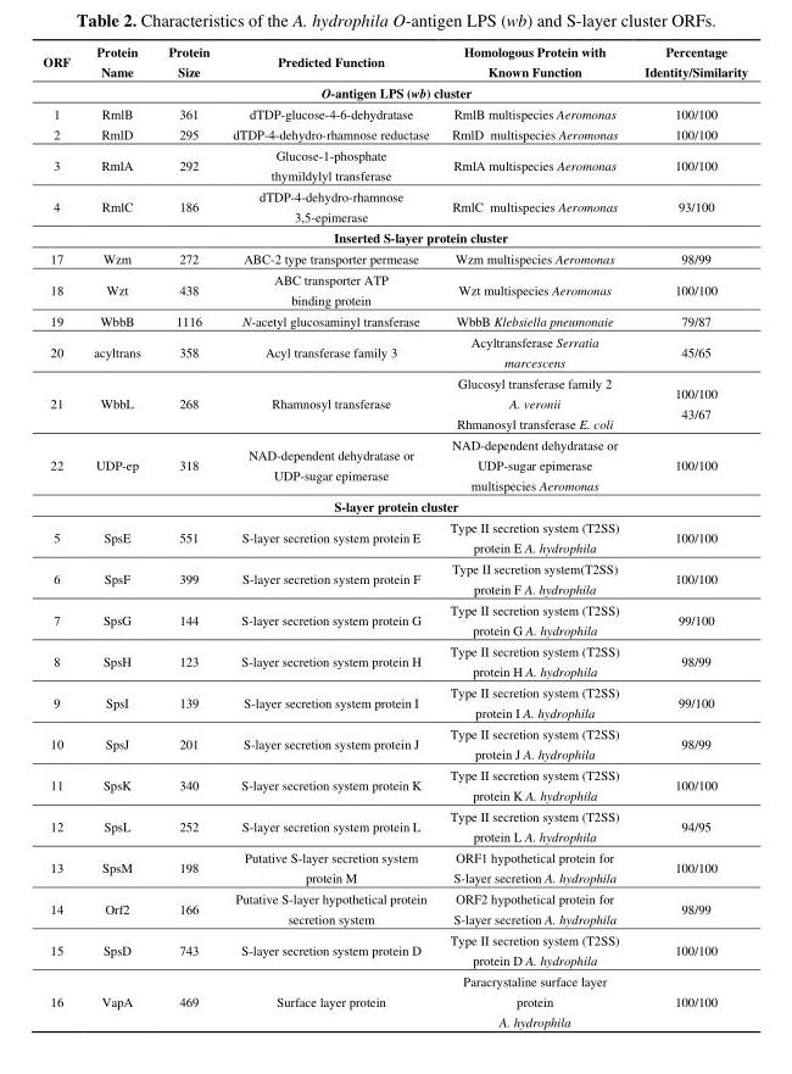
<table><thead><tr><td>ORF</td><td>Protein Name</td><td>Protein Size</td><td>Predicted Function</td><td>Homologous Protein with Known Function</td><td>Percentage Identity/Similarity</td></tr></thead><tbody><tr><td colspan="6">O-antigen LPS (wb) cluster</td></tr><tr><td>1</td><td>RmlB</td><td>361</td><td>dTDP-glucose-4-6-dehydratase</td><td>RmlB multispecies Aeromonas</td><td>100/100</td></tr><tr><td>2</td><td>RmlD</td><td>295</td><td>dTDP-4-dehydro-rhamnose reductase</td><td>RmlD multispecies Aeromonas</td><td>100/100</td></tr><tr><td>3</td><td>RmlA</td><td>292</td><td>Glucose-1-phosphate thymildylyl transferase</td><td>RmlA multispecies Aeromonas</td><td>100/100</td></tr><tr><td rowspan="2">4</td><td>RmlC</td><td>186</td><td>dTDP-4-dehydro-rhamnose 3,5-epimerase</td><td>RmlC multispecies Aeromonas</td><td>93/100</td></tr><tr><td colspan="5">Inserted S-layer protein cluster</td></tr><tr><td>17</td><td>Wzm</td><td>272</td><td>ABC-2 type transporter permease</td><td>Wzm multispecies Aeromonas</td><td>98/99</td></tr><tr><td>18</td><td>Wzt</td><td>438</td><td>ABC transporter ATP binding protein</td><td>Wzt multispecies Aeromonas</td><td>100/100</td></tr><tr><td>19</td><td>WbbB</td><td>1116</td><td>N-acetyl glucosaminyl transferase</td><td>WbbB Klebsiella pneumonaie</td><td>79/87</td></tr><tr><td>20</td><td>acyltrans</td><td>358</td><td>Acyl transferase family 3</td><td>Acyltransferase Serratia marcescens</td><td>45/65</td></tr><tr><td>21</td><td>WbbL</td><td>268</td><td>Rhamnosyl transferase</td><td>Glucosyl transferase family 2 A. veronii Rhmanosyl transferase E. coli</td><td>100/100 43/67</td></tr><tr><td>22</td><td>UDP-ep</td><td>318</td><td>NAD-dependent dehydratase or UDP-sugar epimerase</td><td>NAD-dependent dehydratase or UDP-sugar epimerase multispecies Aeromonas</td><td>100/100</td></tr><tr><td colspan="6">S-layer protein cluster</td></tr><tr><td>5</td><td>SpsE</td><td>551</td><td>S-layer secretion system protein E</td><td>Type II secretion system (T2SS) protein E A. hydrophila</td><td>100/100</td></tr><tr><td>6</td><td>SpsF</td><td>399</td><td>S-layer secretion system protein F</td><td>Type II secretion system(T2SS) protein F A. hydrophila</td><td>100/100</td></tr><tr><td>7</td><td>SpsG</td><td>144</td><td>S-layer secretion system protein G</td><td>Type II secretion system (T2SS) protein G A. hydrophila</td><td>99/100</td></tr><tr><td>8</td><td>SpsH</td><td>123</td><td>S-layer secretion system protein H</td><td>Type II secretion system (T2SS) protein H A. hydrophila</td><td>98/99</td></tr><tr><td>9</td><td>SpsI</td><td>139</td><td>S-layer secretion system protein I</td><td>Type II secretion system (T2SS) protein I A. hydrophila</td><td>99/100</td></tr><tr><td>10</td><td>SpsJ</td><td>201</td><td>S-layer secretion system protein J</td><td>Type II secretion system (T2SS) protein J A. hydrophila</td><td>98/99</td></tr><tr><td>11</td><td>SpsK</td><td>340</td><td>S-layer secretion system protein K</td><td>Type II secretion system (T2SS) protein K A. hydrophila</td><td>100/100</td></tr><tr><td>12</td><td>SpsL</td><td>252</td><td>S-layer secretion system protein L</td><td>Type II secretion system (T2SS) protein L A. hydrophila</td><td>94/95</td></tr><tr><td>13</td><td>SpsM</td><td>198</td><td>Putative S-layer secretion system protein M</td><td>ORF1 hypothetical protein for S-layer secretion A. hydrophila</td><td>100/100</td></tr><tr><td>14</td><td>Orf2</td><td>166</td><td>Putative S-layer hypothetical protein secretion system</td><td>ORF2 hypothetical protein for S-layer secretion A. hydrophila</td><td>98/99</td></tr><tr><td>15</td><td>SpsD</td><td>743</td><td>S-layer secretion system protein D</td><td>Type II secretion system (T2SS) protein D A. hydrophila</td><td>100/100</td></tr><tr><td>16</td><td>VapA</td><td>469</td><td>Surface layer protein</td><td>Paracrystaline surface layer protein A. hydrophila</td><td>100/100</td></tr></tbody></table>